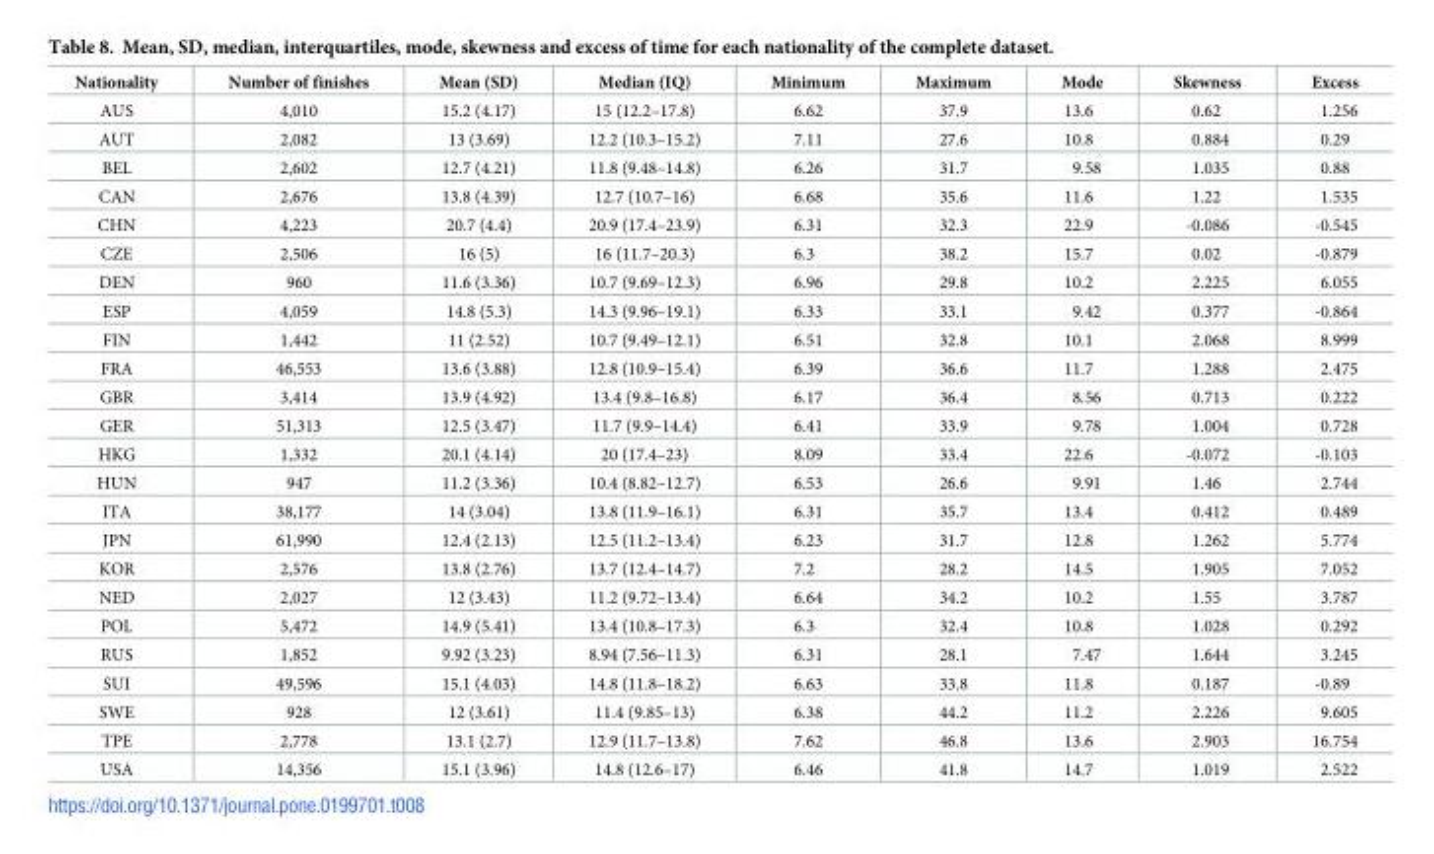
<table><thead><tr><td>Nationality</td><td>Number of finishes</td><td>Mean (SD)</td><td>Median (IQ)</td><td>Minimum</td><td>Maximum</td><td>Mode</td><td>Skewness</td><td>Excess</td></tr></thead><tbody><tr><td>AUS</td><td>4,010</td><td>15.2 (4.17)</td><td>15 (12.2–17.8)</td><td>6.62</td><td>37.9</td><td>13.6</td><td>0.62</td><td>1.256</td></tr><tr><td>AUT</td><td>2,082</td><td>13 (3.69)</td><td>12.2 (10.3–15.2)</td><td>7.11</td><td>27.6</td><td>10.8</td><td>0.884</td><td>0.29</td></tr><tr><td>BEL</td><td>2,602</td><td>12.7 (4.21)</td><td>11.8 (9.48–14.8)</td><td>6.26</td><td>31.7</td><td>9.58</td><td>1.035</td><td>0.88</td></tr><tr><td>CAN</td><td>2,676</td><td>13.8 (4.39)</td><td>12.7 (10.7–16)</td><td>6.68</td><td>35.6</td><td>11.6</td><td>1.22</td><td>1.535</td></tr><tr><td>CHN</td><td>4,223</td><td>20.7 (4.4)</td><td>20.9 (17.4–23.9)</td><td>6.31</td><td>32.3</td><td>22.9</td><td>-0.086</td><td>-0.545</td></tr><tr><td>CZE</td><td>2,506</td><td>16 (5)</td><td>16 (11.7–20.3)</td><td>6.3</td><td>38.2</td><td>15.7</td><td>0.02</td><td>-0.879</td></tr><tr><td>DEN</td><td>960</td><td>11.6 (3.36)</td><td>10.7 (9.69–12.3)</td><td>6.96</td><td>29.8</td><td>10.2</td><td>2.225</td><td>6.055</td></tr><tr><td>ESP</td><td>4,059</td><td>14.8 (5.3)</td><td>14.3 (9.96–19.1)</td><td>6.33</td><td>33.1</td><td>9.42</td><td>0.377</td><td>-0.864</td></tr><tr><td>FIN</td><td>1,442</td><td>11 (2.52)</td><td>10.7 (9.49–12.1)</td><td>6.51</td><td>32.8</td><td>10.1</td><td>2.068</td><td>8.999</td></tr><tr><td>FRA</td><td>46,553</td><td>13.6 (3.88)</td><td>12.8 (10.9–15.4)</td><td>6.39</td><td>36.6</td><td>11.7</td><td>1.288</td><td>2.475</td></tr><tr><td>GBR</td><td>3,414</td><td>13.9 (4.92)</td><td>13.4 (9.8–16.8)</td><td>6.17</td><td>36.4</td><td>8.56</td><td>0.713</td><td>0.222</td></tr><tr><td>GER</td><td>51,313</td><td>12.5 (3.47)</td><td>11.7 (9.9–14.4)</td><td>6.41</td><td>33.9</td><td>9.78</td><td>1.004</td><td>0.728</td></tr><tr><td>HKG</td><td>1,332</td><td>20.1 (4.14)</td><td>20 (17.4–23)</td><td>8.09</td><td>33.4</td><td>22.6</td><td>-0.072</td><td>-0.103</td></tr><tr><td>HUN</td><td>947</td><td>11.2 (3.36)</td><td>10.4 (8.82–12.7)</td><td>6.53</td><td>26.6</td><td>9.91</td><td>1.46</td><td>2.744</td></tr><tr><td>ITA</td><td>38,177</td><td>14 (3.04)</td><td>13.8 (11.9–16.1)</td><td>6.31</td><td>35.7</td><td>13.4</td><td>0.412</td><td>0.489</td></tr><tr><td>JPN</td><td>61,990</td><td>12.4 (2.13)</td><td>12.5 (11.2–13.4)</td><td>6.23</td><td>31.7</td><td>12.8</td><td>1.262</td><td>5.774</td></tr><tr><td>KOR</td><td>2,576</td><td>13.8 (2.76)</td><td>13.7 (12.4–14.7)</td><td>7.2</td><td>28.2</td><td>14.5</td><td>1.905</td><td>7.052</td></tr><tr><td>NED</td><td>2,027</td><td>12 (3.43)</td><td>11.2 (9.72–13.4)</td><td>6.64</td><td>34.2</td><td>10.2</td><td>1.55</td><td>3.787</td></tr><tr><td>POL</td><td>5,472</td><td>14.9 (5.41)</td><td>13.4 (10.8–17.3)</td><td>6.3</td><td>32.4</td><td>10.8</td><td>1.028</td><td>0.292</td></tr><tr><td>RUS</td><td>1,852</td><td>9.92 (3.23)</td><td>8.94 (7.56–11.3)</td><td>6.31</td><td>28.1</td><td>7.47</td><td>1.644</td><td>3.245</td></tr><tr><td>SUI</td><td>49,596</td><td>15.1 (4.03)</td><td>14.8 (11.8–18.2)</td><td>6.63</td><td>33.8</td><td>11.8</td><td>0.187</td><td>-0.89</td></tr><tr><td>SWE</td><td>928</td><td>12 (3.61)</td><td>11.4 (9.85–13)</td><td>6.38</td><td>44.2</td><td>11.2</td><td>2.226</td><td>9.605</td></tr><tr><td>TPE</td><td>2,778</td><td>13.1 (2.7)</td><td>12.9 (11.7–13.8)</td><td>7.62</td><td>46.8</td><td>13.6</td><td>2.903</td><td>16.754</td></tr><tr><td>USA</td><td>14,356</td><td>15.1 (3.96)</td><td>14.8 (12.6–17)</td><td>6.46</td><td>41.8</td><td>14.7</td><td>1.019</td><td>2.522</td></tr></tbody></table>